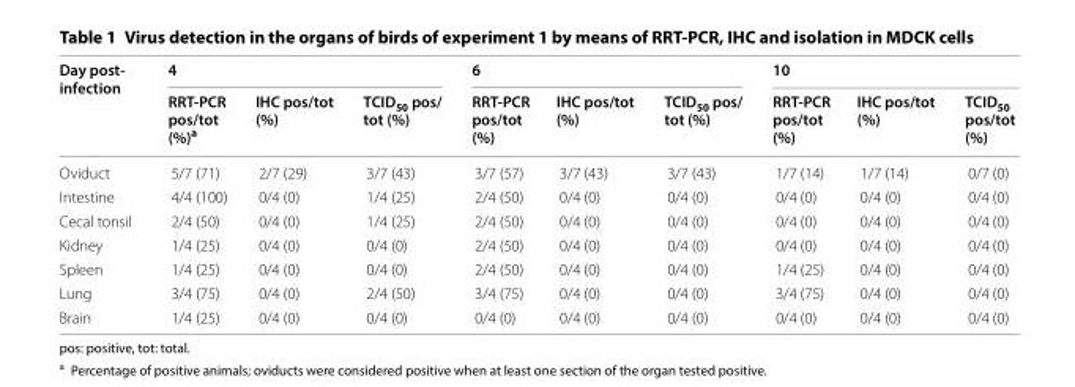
<table><thead><tr><td rowspan="2">Day post- infection</td><td colspan="3">4</td><td colspan="3">6</td><td colspan="3">10</td></tr><tr><td>RRT-PCR pos/tot (%)<sup>a</sup></td><td>IHC pos/tot (%)</td><td>TCID<sub>50</sub> pos/ tot (%)</td><td>RRT-PCR pos/tot (%)</td><td>IHC pos/tot (%)</td><td>TCID<sub>50</sub> pos/ tot (%)</td><td>RRT-PCR pos/tot (%)</td><td>IHC pos/tot (%)</td><td>TCID<sub>50</sub> pos/tot (%)</td></tr></thead><tbody><tr><td>Oviduct</td><td>5/7 (71)</td><td>2/7 (29)</td><td>3/7 (43)</td><td>3/7 (57)</td><td>3/7 (43)</td><td>3/7 (43)</td><td>1/7 (14)</td><td>1/7 (14)</td><td>0/7 (0)</td></tr><tr><td>Intestine</td><td>4/4 (100)</td><td>0/4 (0)</td><td>1/4 (25)</td><td>2/4 (50)</td><td>0/4 (0)</td><td>0/4 (0)</td><td>0/4 (0)</td><td>0/4 (0)</td><td>0/4 (0)</td></tr><tr><td>Cecal tonsil</td><td>2/4 (50)</td><td>0/4 (0)</td><td>1/4 (25)</td><td>2/4 (50)</td><td>0/4 (0)</td><td>0/4 (0)</td><td>0/4 (0)</td><td>0/4 (0)</td><td>0/4 (0)</td></tr><tr><td>Kidney</td><td>1/4 (25)</td><td>0/4 (0)</td><td>0/4 (0)</td><td>2/4 (50)</td><td>0/4 (0)</td><td>0/4 (0)</td><td>0/4 (0)</td><td>0/4 (0)</td><td>0/4 (0)</td></tr><tr><td>Spleen</td><td>1/4 (25)</td><td>0/4 (0)</td><td>0/4 (0)</td><td>2/4 (50)</td><td>0/4 (0)</td><td>0/4 (0)</td><td>1/4 (25)</td><td>0/4 (0)</td><td>0/4 (0)</td></tr><tr><td>Lung</td><td>3/4 (75)</td><td>0/4 (0)</td><td>2/4 (50)</td><td>3/4 (75)</td><td>0/4 (0)</td><td>0/4 (0)</td><td>3/4 (75)</td><td>0/4 (0)</td><td>0/4 (0)</td></tr><tr><td>Brain</td><td>1/4 (25)</td><td>0/4 (0)</td><td>0/4 (0)</td><td>0/4 (0)</td><td>0/4 (0)</td><td>0/4 (0)</td><td>0/4 (0)</td><td>0/4 (0)</td><td>0/4 (0)</td></tr></tbody></table>